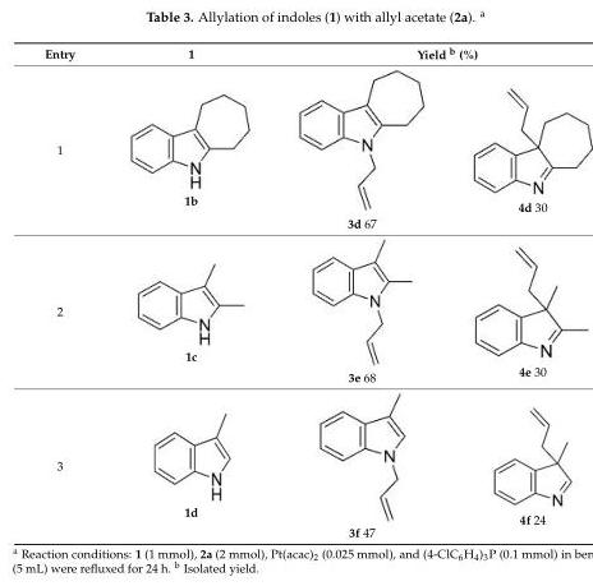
<table><thead><tr><td rowspan="2">Entry 1</td><td rowspan="2">1 1b</td><td colspan="2">Yield b (%)</td></tr><tr><td>3d 67</td><td>4d 30</td></tr></thead><tbody><tr><td>2</td><td>1c</td><td>3e 68</td><td>4e 30</td></tr><tr><td>3</td><td>1d</td><td>3f 47</td><td>4f 24</td></tr></tbody></table>